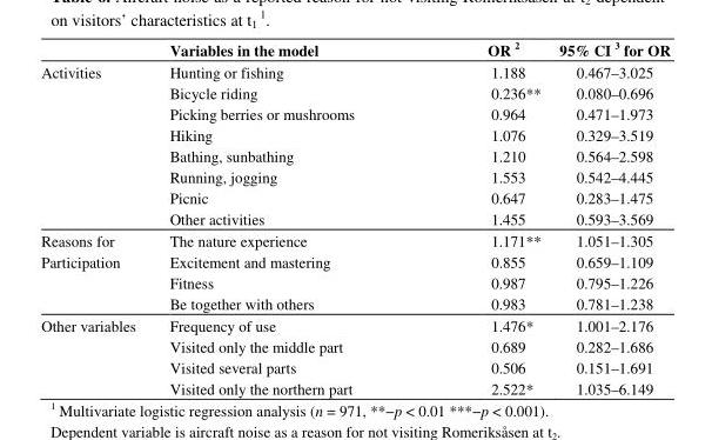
<table><thead><tr><td></td><td>Variables in the model</td><td>OR 2</td><td>95% CI 3 for OR</td></tr></thead><tbody><tr><td rowspan="8">Activities</td><td>Hunting or fishing</td><td>1.188</td><td>0.467–3.025</td></tr><tr><td>Bicycle riding</td><td>0.236**</td><td>0.080–0.696</td></tr><tr><td>Picking berries or mushrooms</td><td>0.964</td><td>0.471–1.973</td></tr><tr><td>Hiking</td><td>1.076</td><td>0.329–3.519</td></tr><tr><td>Bathing, sunbathing</td><td>1.210</td><td>0.564–2.598</td></tr><tr><td>Running, jogging</td><td>1.553</td><td>0.542–4.445</td></tr><tr><td>Picnic</td><td>0.647</td><td>0.283–1.475</td></tr><tr><td>Other activities</td><td>1.455</td><td>0.593–3.569</td></tr><tr><td rowspan="4">Reasons for Participation</td><td>The nature experience</td><td>1.171**</td><td>1.051–1.305</td></tr><tr><td>Excitement and mastering</td><td>0.855</td><td>0.659–1.109</td></tr><tr><td>Fitness</td><td>0.987</td><td>0.795–1.226</td></tr><tr><td>Be together with others</td><td>0.983</td><td>0.781–1.238</td></tr><tr><td rowspan="4">Other variables</td><td>Frequency of use</td><td>1.476*</td><td>1.001–2.176</td></tr><tr><td>Visited only the middle part</td><td>0.689</td><td>0.282–1.686</td></tr><tr><td>Visited several parts</td><td>0.506</td><td>0.151–1.691</td></tr><tr><td>Visited only the northern part</td><td>2.522*</td><td>1.035–6.149</td></tr></tbody></table>